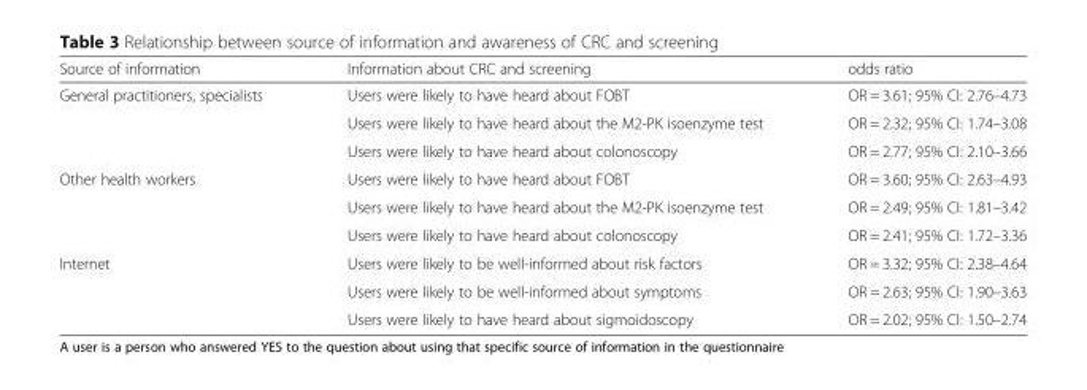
<table><thead><tr><td>Source of information</td><td>Information about CRC and screening</td><td>odds ratio</td></tr></thead><tbody><tr><td rowspan="3">General practitioners, specialists</td><td>Users were likely to have heard about FOBT</td><td>OR = 3.61; 95% CI: 2.76–4.73</td></tr><tr><td>Users were likely to have heard about the M2-PK isoenzyme test</td><td>OR = 2.32; 95% CI: 1.74–3.08</td></tr><tr><td>Users were likely to have heard about colonoscopy</td><td>OR = 2.77; 95% CI: 2.10–3.66</td></tr><tr><td rowspan="3">Other health workers</td><td>Users were likely to have heard about FOBT</td><td>OR = 3.60; 95% CI: 2.63–4.93</td></tr><tr><td>Users were likely to have heard about the M2-PK isoenzyme test</td><td>OR = 2.49; 95% CI: 1.81–3.42</td></tr><tr><td>Users were likely to have heard about colonoscopy</td><td>OR = 2.41; 95% CI: 1.72–3.36</td></tr><tr><td rowspan="3">Internet</td><td>Users were likely to be well-informed about risk factors</td><td>OR = 3.32; 95% CI: 2.38–4.64</td></tr><tr><td>Users were likely to be well-informed about symptoms</td><td>OR = 2.63; 95% CI: 1.90–3.63</td></tr><tr><td>Users were likely to have heard about sigmoidoscopy</td><td>OR = 2.02; 95% CI: 1.50–2.74</td></tr></tbody></table>